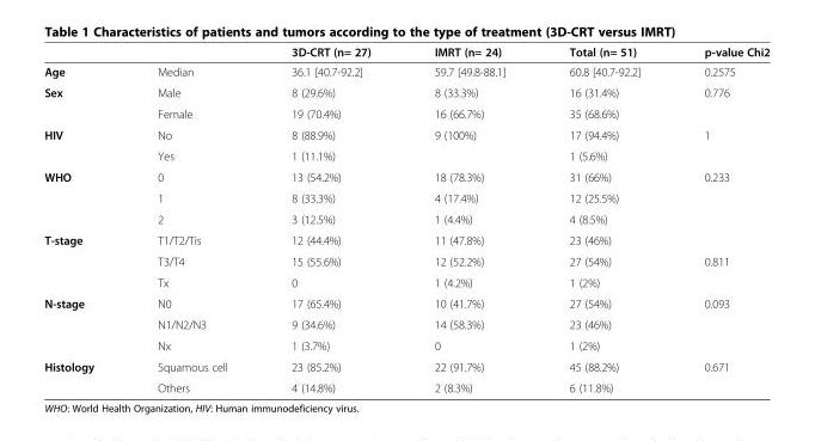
<table><thead><tr><td></td><td></td><td>3D-CRT (n= 27)</td><td>IMRT (n= 24)</td><td>Total (n= 51)</td><td>p-value Chi2</td></tr></thead><tbody><tr><td>Age</td><td>Median</td><td>36.1 [40.7-92.2]</td><td>59.7 [49.8-88.1]</td><td>60.8 [40.7-92.2]</td><td>0.2575</td></tr><tr><td rowspan="2">Sex</td><td>Male</td><td>8 (29.6%)</td><td>8 (33.3%)</td><td>16 (31.4%)</td><td>0.776</td></tr><tr><td>Female</td><td>19 (70.4%)</td><td>16 (66.7%)</td><td>35 (68.6%)</td><td></td></tr><tr><td rowspan="2">HIV</td><td>No</td><td>8 (88.9%)</td><td>9 (100%)</td><td>17 (94.4%)</td><td>1</td></tr><tr><td>Yes</td><td>1 (11.1%)</td><td></td><td>1 (5.6%)</td><td></td></tr><tr><td rowspan="3">WHO</td><td>0</td><td>13 (54.2%)</td><td>18 (78.3%)</td><td>31 (66%)</td><td>0.233</td></tr><tr><td>1</td><td>8 (33.3%)</td><td>4 (17.4%)</td><td>12 (25.5%)</td><td></td></tr><tr><td>2</td><td>3 (12.5%)</td><td>1 (4.4%)</td><td>4 (8.5%)</td><td></td></tr><tr><td rowspan="3">T-stage</td><td>T1/T2/Tis</td><td>12 (44.4%)</td><td>11 (47.8%)</td><td>23 (46%)</td><td></td></tr><tr><td>T3/T4</td><td>15 (55.6%)</td><td>12 (52.2%)</td><td>27 (54%)</td><td>0.811</td></tr><tr><td>Tx</td><td>0</td><td>1 (4.2%)</td><td>1 (2%)</td><td></td></tr><tr><td rowspan="3">N-stage</td><td>N0</td><td>17 (65.4%)</td><td>10 (41.7%)</td><td>27 (54%)</td><td>0.093</td></tr><tr><td>N1/N2/N3</td><td>9 (34.6%)</td><td>14 (58.3%)</td><td>23 (46%)</td><td></td></tr><tr><td>Nx</td><td>1 (3.7%)</td><td>0</td><td>1 (2%)</td><td></td></tr><tr><td rowspan="2">Histology</td><td>Squamous cell</td><td>23 (85.2%)</td><td>22 (91.7%)</td><td>45 (88.2%)</td><td>0.671</td></tr><tr><td>Others</td><td>4 (14.8%)</td><td>2 (8.3%)</td><td>6 (11.8%)</td><td></td></tr></tbody></table>